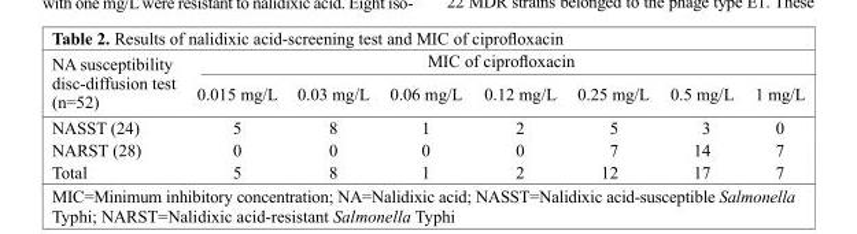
<table><thead><tr><td rowspan="2">NA susceptibility disc-diffusion test (n=52)</td><td colspan="7">MIC of ciprofloxacin</td></tr><tr><td>0.015 mg/L</td><td>0.03 mg/L</td><td>0.06 mg/L</td><td>0.12 mg/L</td><td>0.25 mg/L</td><td>0.5 mg/L</td><td>1 mg/L</td></tr></thead><tbody><tr><td>NASST (24)</td><td>5</td><td>8</td><td>1</td><td>2</td><td>5</td><td>3</td><td>0</td></tr><tr><td>NARST (28)</td><td>0</td><td>0</td><td>0</td><td>0</td><td>7</td><td>14</td><td>7</td></tr><tr><td>Total</td><td>5</td><td>8</td><td>1</td><td>2</td><td>12</td><td>17</td><td>7</td></tr></tbody></table>